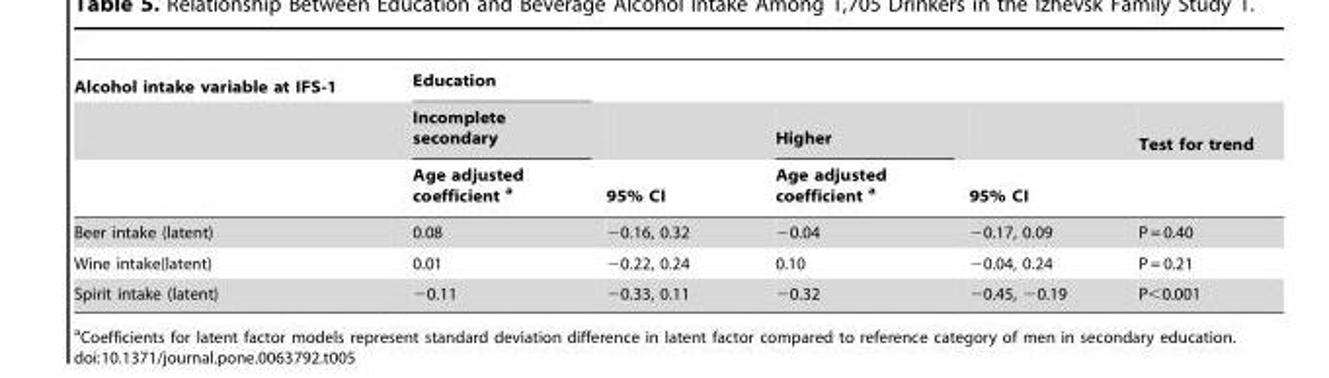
<table><thead><tr><td rowspan="3">Alcohol intake variable at IFS-1</td><td rowspan="3">Education Incomplete secondary Age adjusted coefficient a</td><td rowspan="3">95% CI</td><td rowspan="3">Higher Age adjusted coefficient a</td><td rowspan="3">95% CI</td><td rowspan="3">Test for trend</td></tr><tr></tr><tr></tr></thead><tbody><tr><td>Beer intake (latent)</td><td>0.08</td><td>−0.16, 0.32</td><td>−0.04</td><td>−0.17, 0.09</td><td>P = 0.40</td></tr><tr><td>Wine intake(latent)</td><td>0.01</td><td>−0.22, 0.24</td><td>0.10</td><td>−0.04, 0.24</td><td>P = 0.21</td></tr><tr><td>Spirit intake (latent)</td><td>−0.11</td><td>−0.33, 0.11</td><td>−0.32</td><td>−0.45, −0.19</td><td>P&lt;0.001</td></tr></tbody></table>